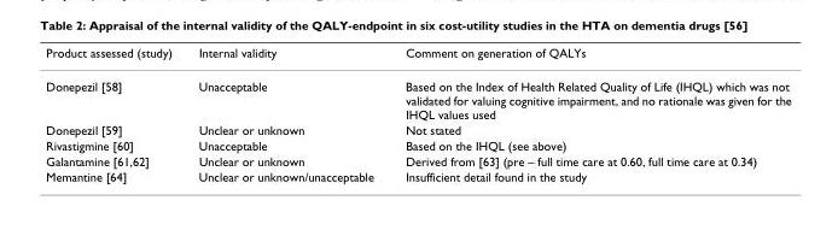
<table><thead><tr><td>Product assessed (study)</td><td>Internal validity</td><td>Comment on generation of QALYs</td></tr></thead><tbody><tr><td>Donepezil [58]</td><td>Unacceptable</td><td>Based on the Index of Health Related Quality of Life (IHQL) which was not validated for valuing cognitive impairment, and no rationale was given for the IHQL values used</td></tr><tr><td>Donepezil [59]</td><td>Unclear or unknown</td><td>Not stated</td></tr><tr><td>Rivastigmine [60]</td><td>Unacceptable</td><td>Based on the IHQL (see above)</td></tr><tr><td>Galantamine [61,62]</td><td>Unclear or unknown</td><td>Derived from [63] (pre – full time care at 0.60, full time care at 0.34)</td></tr><tr><td>Memantine [64]</td><td>Unclear or unknown/unacceptable</td><td>Insufficient detail found in the study</td></tr></tbody></table>